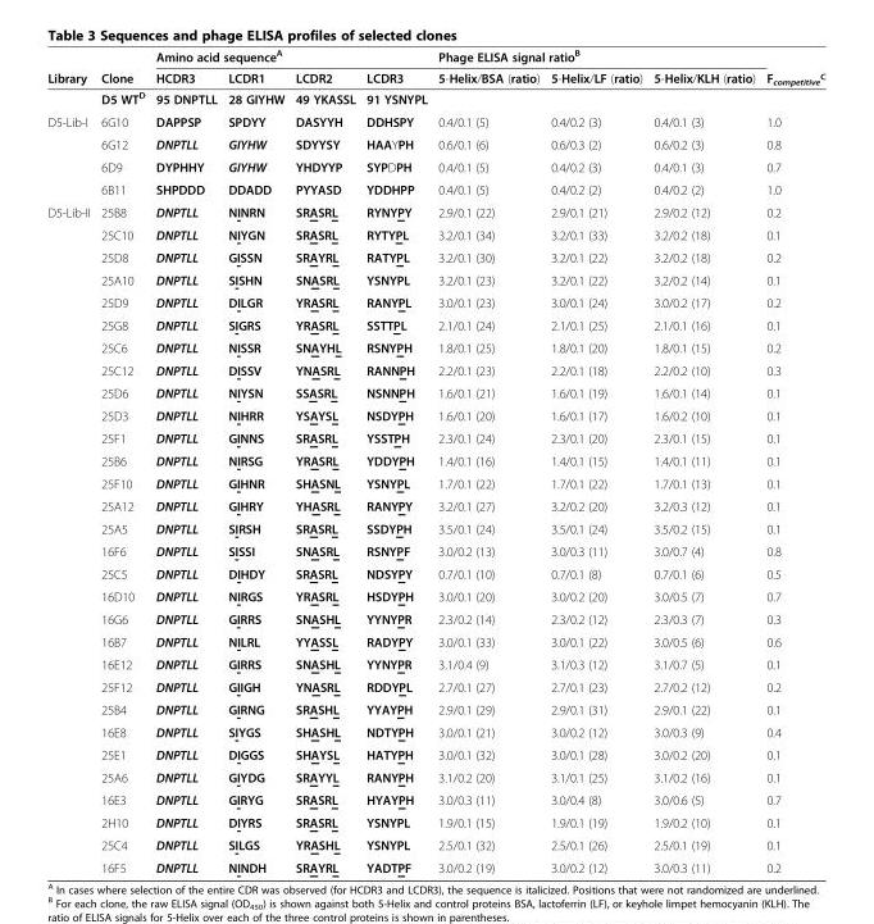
<table><thead><tr><td rowspan="2">Library</td><td rowspan="2">Clone</td><td colspan="4">Amino acid sequence<sup>A</sup></td><td colspan="3">Phage ELISA signal ratio<sup>B</sup></td><td rowspan="2">F<sub>competitive</sub><sup>C</sup></td></tr><tr><td>HCDR3</td><td>LCDR1</td><td>LCDR2</td><td>LCDR3</td><td>5-Helix/BSA (ratio)</td><td>5-Helix/LF (ratio)</td><td>5-Helix/KLH (ratio)</td></tr></thead><tbody><tr><td></td><td>D5 WT<sup>D</sup></td><td>95 DNPTLL</td><td>28 GIYHW</td><td>49 YKASSL</td><td>91 YSNYPL</td><td></td><td></td><td></td><td></td></tr><tr><td rowspan="4">D5-Lib-I</td><td>6G10</td><td>DAPPSP</td><td>SPDYY</td><td>DASYYH</td><td>DDHSPY</td><td>0.4/0.1 (5)</td><td>0.4/0.2 (3)</td><td>0.4/0.1 (3)</td><td>1.0</td></tr><tr><td>6G12</td><td>DNPTLL</td><td>GIYHW</td><td>SDYYSY</td><td>HAAYPH</td><td>0.6/0.1 (6)</td><td>0.6/0.3 (2)</td><td>0.6/0.2 (3)</td><td>0.8</td></tr><tr><td>6D9</td><td>DYPHHY</td><td>GIYHW</td><td>YHDYYP</td><td>SYPDPH</td><td>0.4/0.1 (5)</td><td>0.4/0.2 (3)</td><td>0.4/0.1 (3)</td><td>0.7</td></tr><tr><td>6B11</td><td>SHPDDD</td><td>DDADD</td><td>PYYASD</td><td>YDDHPP</td><td>0.4/0.1 (5)</td><td>0.4/0.2 (2)</td><td>0.4/0.2 (2)</td><td>1.0</td></tr><tr><td rowspan="30">D5-Lib-II</td><td>25B8</td><td>DNPTLL</td><td>NINRN</td><td>SRASRL</td><td>RYNYPY</td><td>2.9/0.1 (22)</td><td>2.9/0.1 (21)</td><td>2.9/0.2 (12)</td><td>0.2</td></tr><tr><td>25C10</td><td>DNPTLL</td><td>NIYGN</td><td>SRASRL</td><td>RYTYPL</td><td>3.2/0.1 (34)</td><td>3.2/0.1 (33)</td><td>3.2/0.2 (18)</td><td>0.1</td></tr><tr><td>25D8</td><td>DNPTLL</td><td>GISSN</td><td>SRAYRL</td><td>RATYPL</td><td>3.2/0.1 (30)</td><td>3.2/0.1 (22)</td><td>3.2/0.2 (18)</td><td>0.2</td></tr><tr><td>25A10</td><td>DNPTLL</td><td>SISHN</td><td>SNASRL</td><td>YSNYPL</td><td>3.2/0.1 (23)</td><td>3.2/0.1 (22)</td><td>3.2/0.2 (14)</td><td>0.1</td></tr><tr><td>25D9</td><td>DNPTLL</td><td>DILGR</td><td>YRASRL</td><td>RANYPL</td><td>3.0/0.1 (23)</td><td>3.0/0.1 (24)</td><td>3.0/0.2 (17)</td><td>0.2</td></tr><tr><td>25G8</td><td>DNPTLL</td><td>SIGRS</td><td>YRASRL</td><td>SSTTPL</td><td>2.1/0.1 (24)</td><td>2.1/0.1 (25)</td><td>2.1/0.1 (16)</td><td>0.1</td></tr><tr><td>25C6</td><td>DNPTLL</td><td>NISSR</td><td>SNAYHL</td><td>RSNYPH</td><td>1.8/0.1 (25)</td><td>1.8/0.1 (20)</td><td>1.8/0.1 (15)</td><td>0.2</td></tr><tr><td>25C12</td><td>DNPTLL</td><td>DISSV</td><td>YNASRL</td><td>RANNPH</td><td>2.2/0.1 (23)</td><td>2.2/0.1 (18)</td><td>2.2/0.2 (10)</td><td>0.3</td></tr><tr><td>25D6</td><td>DNPTLL</td><td>NIYSN</td><td>SSASRL</td><td>NSNNPH</td><td>1.6/0.1 (21)</td><td>1.6/0.1 (19)</td><td>1.6/0.1 (14)</td><td>0.1</td></tr><tr><td>25D3</td><td>DNPTLL</td><td>NIHRR</td><td>YSAYSL</td><td>NSDYPH</td><td>1.6/0.1 (20)</td><td>1.6/0.1 (17)</td><td>1.6/0.2 (10)</td><td>0.1</td></tr><tr><td>25F1</td><td>DNPTLL</td><td>GINNS</td><td>SRASRL</td><td>YSSTPH</td><td>2.3/0.1 (24)</td><td>2.3/0.1 (20)</td><td>2.3/0.1 (15)</td><td>0.1</td></tr><tr><td>25B6</td><td>DNPTLL</td><td>NIRSG</td><td>YRASRL</td><td>YDDYPH</td><td>1.4/0.1 (16)</td><td>1.4/0.1 (15)</td><td>1.4/0.1 (11)</td><td>0.1</td></tr><tr><td>25F10</td><td>DNPTLL</td><td>GIHNR</td><td>SHASNL</td><td>YSNYPL</td><td>1.7/0.1 (22)</td><td>1.7/0.1 (22)</td><td>1.7/0.1 (13)</td><td>0.1</td></tr><tr><td>25A12</td><td>DNPTLL</td><td>GIHRY</td><td>YHASRL</td><td>RANYPY</td><td>3.2/0.1 (27)</td><td>3.2/0.2 (20)</td><td>3.2/0.3 (12)</td><td>0.1</td></tr><tr><td>25A5</td><td>DNPTLL</td><td>SIRSH</td><td>SRASRL</td><td>SSDYPH</td><td>3.5/0.1 (24)</td><td>3.5/0.1 (24)</td><td>3.5/0.2 (15)</td><td>0.1</td></tr><tr><td>16F6</td><td>DNPTLL</td><td>SISSI</td><td>SNASRL</td><td>RSNYPF</td><td>3.0/0.2 (13)</td><td>3.0/0.3 (11)</td><td>3.0/0.7 (4)</td><td>0.8</td></tr><tr><td>25C5</td><td>DNPTLL</td><td>DIHDY</td><td>SRASRL</td><td>NDSYPY</td><td>0.7/0.1 (10)</td><td>0.7/0.1 (8)</td><td>0.7/0.1 (6)</td><td>0.5</td></tr><tr><td>16D10</td><td>DNPTLL</td><td>NIRGS</td><td>YRASRL</td><td>HSDYPH</td><td>3.0/0.1 (20)</td><td>3.0/0.2 (20)</td><td>3.0/0.5 (7)</td><td>0.7</td></tr><tr><td>16G6</td><td>DNPTLL</td><td>GIRRS</td><td>SNASHL</td><td>YYNYPR</td><td>2.3/0.2 (14)</td><td>2.3/0.2 (12)</td><td>2.3/0.3 (7)</td><td>0.3</td></tr><tr><td>16B7</td><td>DNPTLL</td><td>NILRL</td><td>YYASSL</td><td>RADYPY</td><td>3.0/0.1 (33)</td><td>3.0/0.1 (22)</td><td>3.0/0.5 (6)</td><td>0.6</td></tr><tr><td>16E12</td><td>DNPTLL</td><td>GIRRS</td><td>SNASHL</td><td>YYNYPR</td><td>3.1/0.4 (9)</td><td>3.1/0.3 (12)</td><td>3.1/0.7 (5)</td><td>0.1</td></tr><tr><td>25F12</td><td>DNPTLL</td><td>GIIGH</td><td>YNASRL</td><td>RDDYPL</td><td>2.7/0.1 (27)</td><td>2.7/0.1 (23)</td><td>2.7/0.2 (12)</td><td>0.2</td></tr><tr><td>25B4</td><td>DNPTLL</td><td>GIRNG</td><td>SRASHL</td><td>YYAYPH</td><td>2.9/0.1 (29)</td><td>2.9/0.1 (31)</td><td>2.9/0.1 (22)</td><td>0.1</td></tr><tr><td>16E8</td><td>DNPTLL</td><td>SIYGS</td><td>SHASHL</td><td>NDTYPH</td><td>3.0/0.1 (21)</td><td>3.0/0.2 (12)</td><td>3.0/0.3 (9)</td><td>0.4</td></tr><tr><td>25E1</td><td>DNPTLL</td><td>DIGGS</td><td>SHAYSL</td><td>HATYPH</td><td>3.0/0.1 (32)</td><td>3.0/0.1 (28)</td><td>3.0/0.2 (20)</td><td>0.1</td></tr><tr><td>25A6</td><td>DNPTLL</td><td>GIYDG</td><td>SRAYYL</td><td>RANYPH</td><td>3.1/0.2 (20)</td><td>3.1/0.1 (25)</td><td>3.1/0.2 (16)</td><td>0.1</td></tr><tr><td>16E3</td><td>DNPTLL</td><td>GIRYG</td><td>SRASRL</td><td>HYAYPH</td><td>3.0/0.3 (11)</td><td>3.0/0.4 (8)</td><td>3.0/0.6 (5)</td><td>0.7</td></tr><tr><td>2H10</td><td>DNPTLL</td><td>DIYRS</td><td>SRASRL</td><td>YSNYPL</td><td>1.9/0.1 (15)</td><td>1.9/0.1 (19)</td><td>1.9/0.2 (10)</td><td>0.1</td></tr><tr><td>25C4</td><td>DNPTLL</td><td>SILGS</td><td>YRASHL</td><td>YSNYPL</td><td>2.5/0.1 (32)</td><td>2.5/0.1 (26)</td><td>2.5/0.1 (19)</td><td>0.1</td></tr><tr><td>16F5</td><td>DNPTLL</td><td>NINDH</td><td>SRAYRL</td><td>YADTPF</td><td>3.0/0.2 (19)</td><td>3.0/0.2 (12)</td><td>3.0/0.3 (11)</td><td>0.2</td></tr></tbody></table>